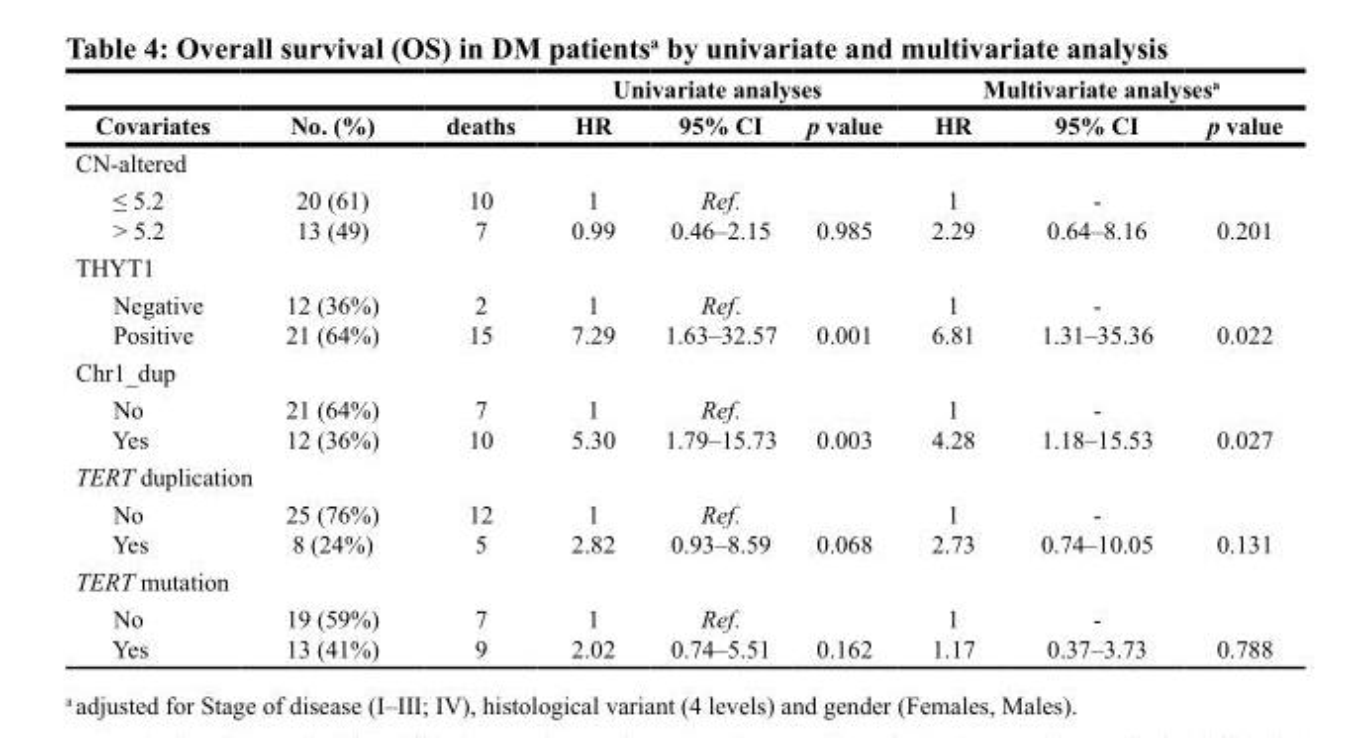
<table><thead><tr><td rowspan="2">Covariates</td><td rowspan="2">No. (%)</td><td rowspan="2">deaths</td><td colspan="3">Univariate analyses</td><td colspan="3">Multivariate analyses<sup>a</sup></td></tr><tr><td>HR</td><td>95% CI</td><td>p value</td><td>HR</td><td>95% CI</td><td>p value</td></tr></thead><tbody><tr><td colspan="9">CN-altered</td></tr><tr><td>≤ 5.2 &gt; 5.2</td><td>20 (61) 13 (49)</td><td>10 7</td><td>1 0.99</td><td>Ref. 0.46–2.15</td><td>0.985</td><td>1 2.29</td><td>- 0.64–8.16</td><td>0.201</td></tr><tr><td colspan="9">THYT1</td></tr><tr><td>Negative Positive</td><td>12 (36%) 21 (64%)</td><td>2 15</td><td>1 7.29</td><td>Ref. 1.63–32.57</td><td>0.001</td><td>1 6.81</td><td>- 1.31–35.36</td><td>0.022</td></tr><tr><td colspan="9">Chr1_dup</td></tr><tr><td>No Yes</td><td>21 (64%) 12 (36%)</td><td>7 10</td><td>1 5.30</td><td>Ref. 1.79–15.73</td><td>0.003</td><td>1 4.28</td><td>- 1.18–15.53</td><td>0.027</td></tr><tr><td colspan="9">TERT duplication</td></tr><tr><td>No Yes</td><td>25 (76%) 8 (24%)</td><td>12 5</td><td>1 2.82</td><td>Ref. 0.93–8.59</td><td>0.068</td><td>1 2.73</td><td>- 0.74–10.05</td><td>0.131</td></tr><tr><td colspan="9">TERT mutation</td></tr><tr><td>No Yes</td><td>19 (59%) 13 (41%)</td><td>7 9</td><td>1 2.02</td><td>Ref. 0.74–5.51</td><td>0.162</td><td>1 1.17</td><td>- 0.37–3.73</td><td>0.788</td></tr></tbody></table>